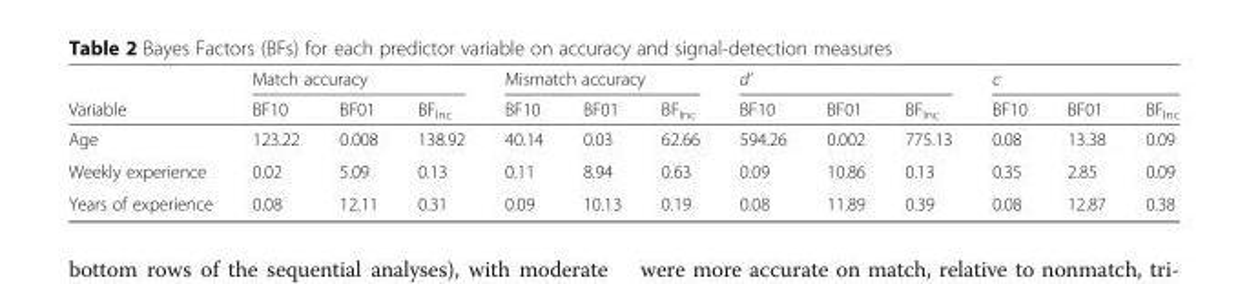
<table><thead><tr><td rowspan="2">Variable</td><td colspan="3">Match accuracy</td><td colspan="3">Mismatch accuracy</td><td colspan="3">d’</td><td colspan="3">c</td></tr><tr><td>BF10</td><td>BF01</td><td>BF<sub>Inc</sub></td><td>BF10</td><td>BF01</td><td>BF<sub>Inc</sub></td><td>BF10</td><td>BF01</td><td>BF<sub>Inc</sub></td><td>BF10</td><td>BF01</td><td>BF<sub>Inc</sub></td></tr></thead><tbody><tr><td>Age</td><td>123.22</td><td>0.008</td><td>138.92</td><td>40.14</td><td>0.03</td><td>62.66</td><td>594.26</td><td>0.002</td><td>775.13</td><td>0.08</td><td>13.38</td><td>0.09</td></tr><tr><td>Weekly experience</td><td>0.02</td><td>5.09</td><td>0.13</td><td>0.11</td><td>8.94</td><td>0.63</td><td>0.09</td><td>10.86</td><td>0.13</td><td>0.35</td><td>2.85</td><td>0.09</td></tr><tr><td>Years of experience</td><td>0.08</td><td>12.11</td><td>0.31</td><td>0.09</td><td>10.13</td><td>0.19</td><td>0.08</td><td>11.89</td><td>0.39</td><td>0.08</td><td>12.87</td><td>0.38</td></tr></tbody></table>